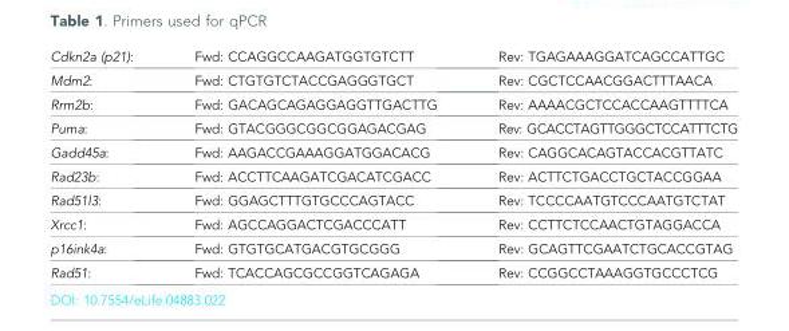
<table><tbody><tr><td>Cdkn2a (p21):</td><td>Fwd: CCAGGCCAAGATGGTGTCTT</td><td>Rev: TGAGAAAGGATCAGCCATTGC</td></tr><tr><td>Mdm2:</td><td>Fwd: CTGTGTCTACCGAGGGTGCT</td><td>Rev: CGCTCCAACGGACTTTAACA</td></tr><tr><td>Rrm2b:</td><td>Fwd: GACAGCAGAGGAGGTTGACTTG</td><td>Rev: AAAACGCTCCACCAAGTTTTCA</td></tr><tr><td>Puma:</td><td>Fwd: GTACGGGCGGCGGAGACGAG</td><td>Rev: GCACCTAGTTGGGCTCCATTTCTG</td></tr><tr><td>Gadd45a:</td><td>Fwd: AAGACCGAAAGGATGGACACG</td><td>Rev: CAGGCACAGTACCACGTTATC</td></tr><tr><td>Rad23b:</td><td>Fwd: ACCTTCAAGATCGACATCGACC</td><td>Rev: ACTTCTGACCTGCTACCGGAA</td></tr><tr><td>Rad51l3:</td><td>Fwd: GGAGCTTTGTGCCCAGTACC</td><td>Rev: TCCCCAATGTCCCAATGTCTAT</td></tr><tr><td>Xrcc1:</td><td>Fwd: AGCCAGGACTCGACCCATT</td><td>Rev: CCTTCTCCAACTGTAGGACCA</td></tr><tr><td>p16ink4a:</td><td>Fwd: GTGTGCATGACGTGCGGG</td><td>Rev: GCAGTTCGAATCTGCACCGTAG</td></tr><tr><td>Rad51:</td><td>Fwd: TCACCAGCGCCGGTCAGAGA</td><td>Rev: CCGGCCTAAAGGTGCCCTCG</td></tr></tbody></table>